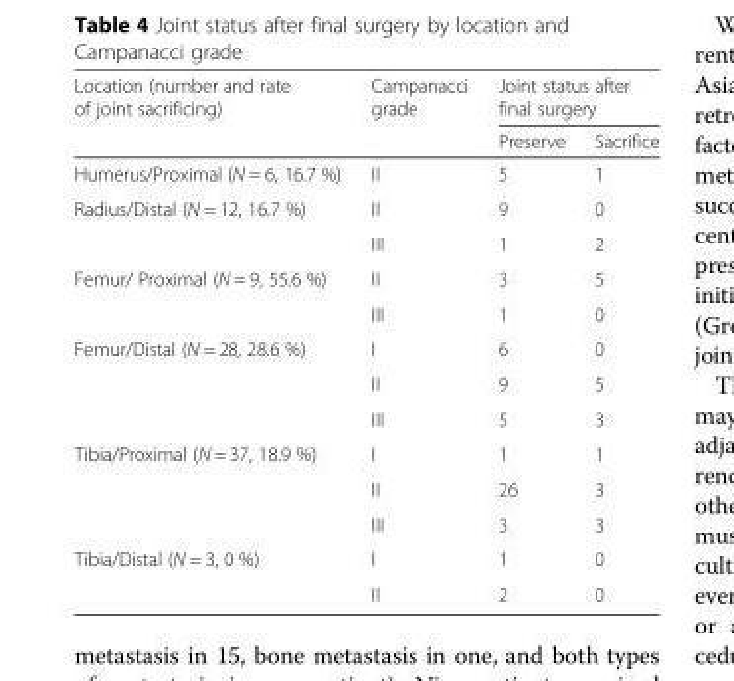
<table><thead><tr><td rowspan="2">Location (number and rate of joint sacrificing)</td><td rowspan="2">Campanacci grade</td><td colspan="2">Joint status after final surgery</td></tr><tr><td>Preserve</td><td>Sacrifice</td></tr></thead><tbody><tr><td>Humerus/Proximal (N = 6, 16.7 %)</td><td>II</td><td>5</td><td>1</td></tr><tr><td rowspan="2">Radius/Distal (N = 12, 16.7 %)</td><td>II</td><td>9</td><td>0</td></tr><tr><td>III</td><td>1</td><td>2</td></tr><tr><td rowspan="2">Femur/ Proximal (N = 9, 55.6 %)</td><td>II</td><td>3</td><td>5</td></tr><tr><td>III</td><td>1</td><td>0</td></tr><tr><td rowspan="3">Femur/Distal (N = 28, 28.6 %)</td><td>I</td><td>6</td><td>0</td></tr><tr><td>II</td><td>9</td><td>5</td></tr><tr><td>III</td><td>5</td><td>3</td></tr><tr><td rowspan="3">Tibia/Proximal (N = 37, 18.9 %)</td><td>I</td><td>1</td><td>1</td></tr><tr><td>II</td><td>26</td><td>3</td></tr><tr><td>III</td><td>3</td><td>3</td></tr><tr><td rowspan="2">Tibia/Distal (N = 3, 0 %)</td><td>I</td><td>1</td><td>0</td></tr><tr><td>II</td><td>2</td><td>0</td></tr></tbody></table>